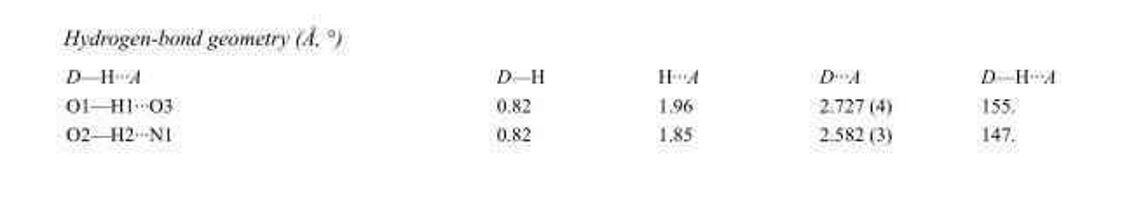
<table><tbody><tr><td>D—H···A</td><td>D—H</td><td>H···A</td><td>D···A</td><td>D—H···A</td></tr><tr><td>O1—H1···O3</td><td>0.82</td><td>1.96</td><td>2.727 (4)</td><td>155.</td></tr><tr><td>O2—H2···N1</td><td>0.82</td><td>1.85</td><td>2.582 (3)</td><td>147.</td></tr></tbody></table>